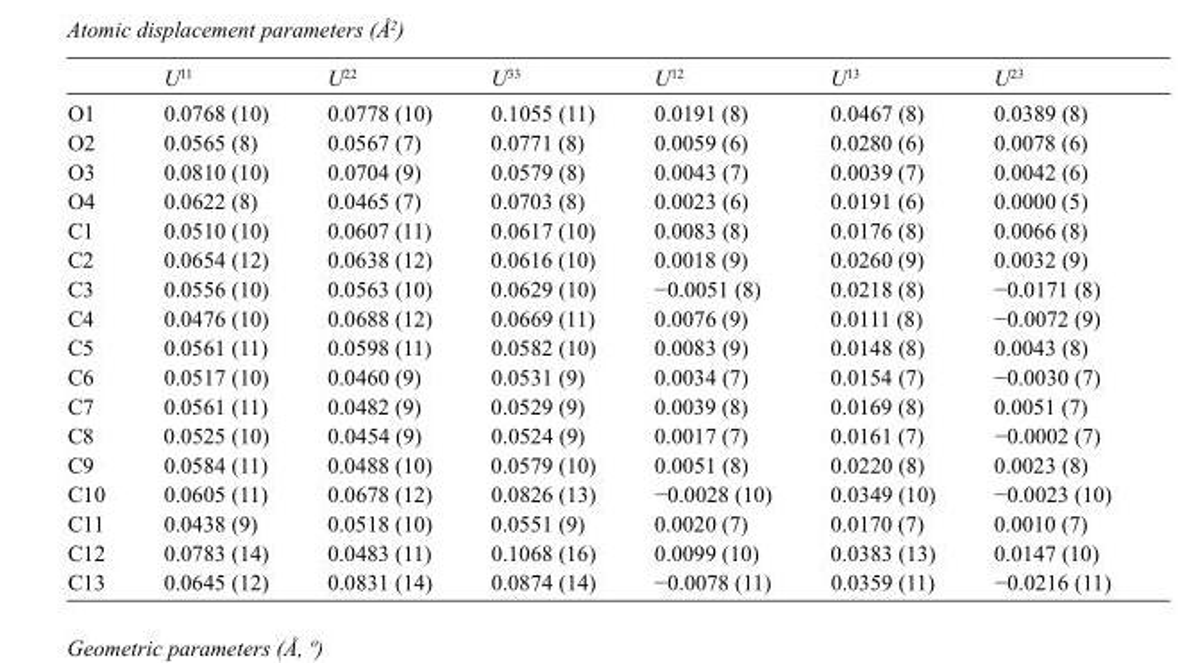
<table><thead><tr><td></td><td>U<sup>11</sup></td><td>U<sup>22</sup></td><td>U<sup>33</sup></td><td>U<sup>12</sup></td><td>U<sup>13</sup></td><td>U<sup>23</sup></td></tr></thead><tbody><tr><td>O1</td><td>0.0768 (10)</td><td>0.0778 (10)</td><td>0.1055 (11)</td><td>0.0191 (8)</td><td>0.0467 (8)</td><td>0.0389 (8)</td></tr><tr><td>O2</td><td>0.0565 (8)</td><td>0.0567 (7)</td><td>0.0771 (8)</td><td>0.0059 (6)</td><td>0.0280 (6)</td><td>0.0078 (6)</td></tr><tr><td>O3</td><td>0.0810 (10)</td><td>0.0704 (9)</td><td>0.0579 (8)</td><td>0.0043 (7)</td><td>0.0039 (7)</td><td>0.0042 (6)</td></tr><tr><td>O4</td><td>0.0622 (8)</td><td>0.0465 (7)</td><td>0.0703 (8)</td><td>0.0023 (6)</td><td>0.0191 (6)</td><td>0.0000 (5)</td></tr><tr><td>C1</td><td>0.0510 (10)</td><td>0.0607 (11)</td><td>0.0617 (10)</td><td>0.0083 (8)</td><td>0.0176 (8)</td><td>0.0066 (8)</td></tr><tr><td>C2</td><td>0.0654 (12)</td><td>0.0638 (12)</td><td>0.0616 (10)</td><td>0.0018 (9)</td><td>0.0260 (9)</td><td>0.0032 (9)</td></tr><tr><td>C3</td><td>0.0556 (10)</td><td>0.0563 (10)</td><td>0.0629 (10)</td><td>−0.0051 (8)</td><td>0.0218 (8)</td><td>−0.0171 (8)</td></tr><tr><td>C4</td><td>0.0476 (10)</td><td>0.0688 (12)</td><td>0.0669 (11)</td><td>0.0076 (9)</td><td>0.0111 (8)</td><td>−0.0072 (9)</td></tr><tr><td>C5</td><td>0.0561 (11)</td><td>0.0598 (11)</td><td>0.0582 (10)</td><td>0.0083 (9)</td><td>0.0148 (8)</td><td>0.0043 (8)</td></tr><tr><td>C6</td><td>0.0517 (10)</td><td>0.0460 (9)</td><td>0.0531 (9)</td><td>0.0034 (7)</td><td>0.0154 (7)</td><td>−0.0030 (7)</td></tr><tr><td>C7</td><td>0.0561 (11)</td><td>0.0482 (9)</td><td>0.0529 (9)</td><td>0.0039 (8)</td><td>0.0169 (8)</td><td>0.0051 (7)</td></tr><tr><td>C8</td><td>0.0525 (10)</td><td>0.0454 (9)</td><td>0.0524 (9)</td><td>0.0017 (7)</td><td>0.0161 (7)</td><td>−0.0002 (7)</td></tr><tr><td>C9</td><td>0.0584 (11)</td><td>0.0488 (10)</td><td>0.0579 (10)</td><td>0.0051 (8)</td><td>0.0220 (8)</td><td>0.0023 (8)</td></tr><tr><td>C10</td><td>0.0605 (11)</td><td>0.0678 (12)</td><td>0.0826 (13)</td><td>−0.0028 (10)</td><td>0.0349 (10)</td><td>−0.0023 (10)</td></tr><tr><td>C11</td><td>0.0438 (9)</td><td>0.0518 (10)</td><td>0.0551 (9)</td><td>0.0020 (7)</td><td>0.0170 (7)</td><td>0.0010 (7)</td></tr><tr><td>C12</td><td>0.0783 (14)</td><td>0.0483 (11)</td><td>0.1068 (16)</td><td>0.0099 (10)</td><td>0.0383 (13)</td><td>0.0147 (10)</td></tr><tr><td>C13</td><td>0.0645 (12)</td><td>0.0831 (14)</td><td>0.0874 (14)</td><td>−0.0078 (11)</td><td>0.0359 (11)</td><td>−0.0216 (11)</td></tr></tbody></table>